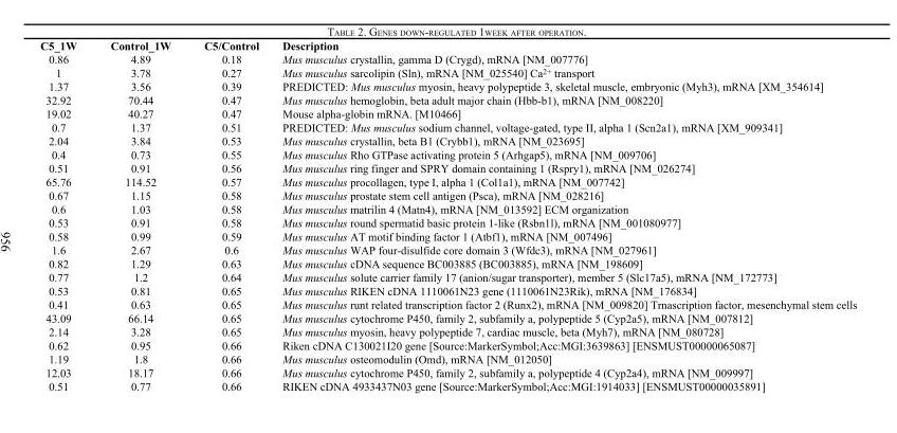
<table><thead><tr><td>C5_1W</td><td>Control_1W</td><td>C5/Control</td><td>Description</td></tr></thead><tbody><tr><td>0.86</td><td>4.89</td><td>0.18</td><td>Mus musculus crystallin, gamma D (Crygd), mRNA [NM_007776]</td></tr><tr><td>1</td><td>3.78</td><td>0.27</td><td>Mus musculus sarcolipin (Sln), mRNA [NM_025540] Ca<sup>2+</sup> transport</td></tr><tr><td>1.37</td><td>3.56</td><td>0.39</td><td>PREDICTED: Mus musculus myosin, heavy polypeptide 3, skeletal muscle, embryonic (Myh3), mRNA [XM_354614]</td></tr><tr><td>32.92</td><td>70.44</td><td>0.47</td><td>Mus musculus hemoglobin, beta adult major chain (Hbb-b1), mRNA [NM_008220]</td></tr><tr><td>19.02</td><td>40.27</td><td>0.47</td><td>Mouse alpha-globin mRNA. [M10466]</td></tr><tr><td>0.7</td><td>1.37</td><td>0.51</td><td>PREDICTED: Mus musculus sodium channel, voltage-gated, type II, alpha 1 (Scn2a1), mRNA [XM_909341]</td></tr><tr><td>2.04</td><td>3.84</td><td>0.53</td><td>Mus musculus crystallin, beta B1 (Crybb1), mRNA [NM_023695]</td></tr><tr><td>0.4</td><td>0.73</td><td>0.55</td><td>Mus musculus Rho GTPase activating protein 5 (Arhgap5), mRNA [NM_009706]</td></tr><tr><td>0.51</td><td>0.91</td><td>0.56</td><td>Mus musculus ring finger and SPRY domain containing 1 (Rspry1), mRNA [NM_026274]</td></tr><tr><td>65.76</td><td>114.52</td><td>0.57</td><td>Mus musculus procollagen, type I, alpha 1 (Col1a1), mRNA [NM_007742]</td></tr><tr><td>0.67</td><td>1.15</td><td>0.58</td><td>Mus musculus prostate stem cell antigen (Psca), mRNA [NM_028216]</td></tr><tr><td>0.6</td><td>1.03</td><td>0.58</td><td>Mus musculus matrilin 4 (Matn4), mRNA [NM_013592] ECM organization</td></tr><tr><td>0.53</td><td>0.91</td><td>0.58</td><td>Mus musculus round spermatid basic protein 1-like (Rsbn1l), mRNA [NM_001080977]</td></tr><tr><td>0.58</td><td>0.99</td><td>0.59</td><td>Mus musculus AT motif binding factor 1 (Atbf1), mRNA [NM_007496]</td></tr><tr><td>1.6</td><td>2.67</td><td>0.6</td><td>Mus musculus WAP four-disulfide core domain 3 (Wfdc3), mRNA [NM_027961]</td></tr><tr><td>0.82</td><td>1.29</td><td>0.63</td><td>Mus musculus cDNA sequence BC003885 (BC003885), mRNA [NM_198609]</td></tr><tr><td>0.77</td><td>1.2</td><td>0.64</td><td>Mus musculus solute carrier family 17 (anion/sugar transporter), member 5 (Slc17a5), mRNA [NM_172773]</td></tr><tr><td>0.53</td><td>0.81</td><td>0.65</td><td>Mus musculus RIKEN cDNA 1110061N23 gene (1110061N23Rik), mRNA [NM_176834]</td></tr><tr><td>0.41</td><td>0.63</td><td>0.65</td><td>Mus musculus runt related transcription factor 2 (Runx2), mRNA [NM_009820] Trnascription factor, mesenchymal stem cells</td></tr><tr><td>43.09</td><td>66.14</td><td>0.65</td><td>Mus musculus cytochrome P450, family 2, subfamily a, polypeptide 5 (Cyp2a5), mRNA [NM_007812]</td></tr><tr><td>2.14</td><td>3.28</td><td>0.65</td><td>Mus musculus myosin, heavy polypeptide 7, cardiac muscle, beta (Myh7), mRNA [NM_080728]</td></tr><tr><td>0.62</td><td>0.95</td><td>0.66</td><td>Riken cDNA C130021I20 gene [Source:MarkerSymbol;Acc:MGI:3639863] [ENSMUST00000065087]</td></tr><tr><td>1.19</td><td>1.8</td><td>0.66</td><td>Mus musculus osteomodulin (Omd), mRNA [NM_012050]</td></tr><tr><td>12.03</td><td>18.17</td><td>0.66</td><td>Mus musculus cytochrome P450, family 2, subfamily a, polypeptide 4 (Cyp2a4), mRNA [NM_009997]</td></tr><tr><td>0.51</td><td>0.77</td><td>0.66</td><td>RIKEN cDNA 4933437N03 gene [Source:MarkerSymbol;Acc:MGI:1914033] [ENSMUST00000035891]</td></tr></tbody></table>